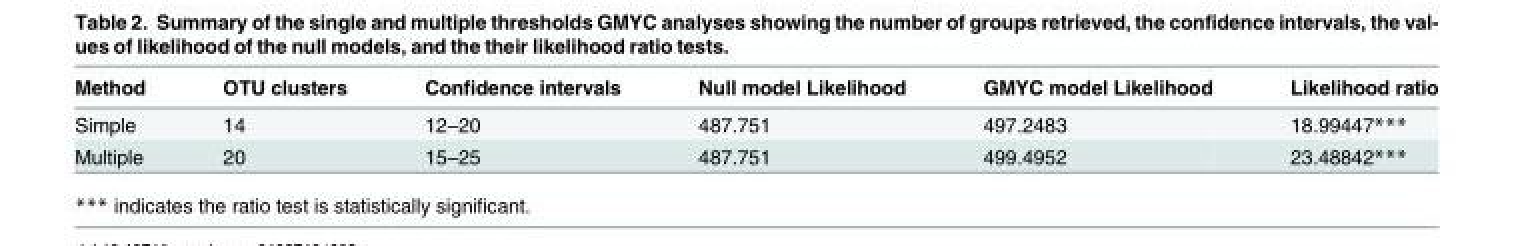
<table><thead><tr><td>Method</td><td>OTU clusters</td><td>Confidence intervals</td><td>Null model Likelihood</td><td>GMYC model Likelihood</td><td>Likelihood ratio</td></tr></thead><tbody><tr><td>Simple</td><td>14</td><td>12–20</td><td>487.751</td><td>497.2483</td><td>18.99447***</td></tr><tr><td>Multiple</td><td>20</td><td>15–25</td><td>487.751</td><td>499.4952</td><td>23.48842***</td></tr></tbody></table>